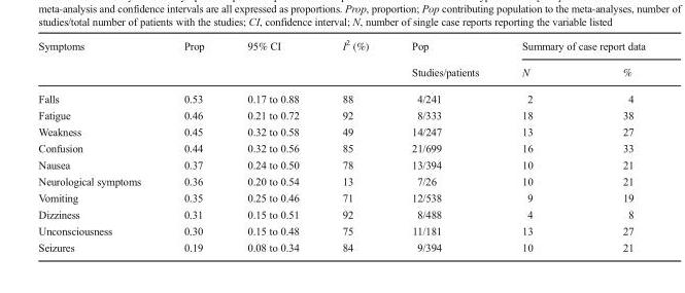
<table><thead><tr><td rowspan="2">Symptoms</td><td rowspan="2">Prop</td><td rowspan="2">95% CI</td><td rowspan="2">I<sup>2</sup> (%)</td><td rowspan="2">Pop Studies/patients</td><td colspan="2">Summary of case report data</td></tr><tr><td>N</td><td>%</td></tr></thead><tbody><tr><td>Falls</td><td>0.53</td><td>0.17 to 0.88</td><td>88</td><td>4/241</td><td>2</td><td>4</td></tr><tr><td>Fatigue</td><td>0.46</td><td>0.21 to 0.72</td><td>92</td><td>8/333</td><td>18</td><td>38</td></tr><tr><td>Weakness</td><td>0.45</td><td>0.32 to 0.58</td><td>49</td><td>14/247</td><td>13</td><td>27</td></tr><tr><td>Confusion</td><td>0.44</td><td>0.32 to 0.56</td><td>85</td><td>21/699</td><td>16</td><td>33</td></tr><tr><td>Nausea</td><td>0.37</td><td>0.24 to 0.50</td><td>78</td><td>13/394</td><td>10</td><td>21</td></tr><tr><td>Neurological symptoms</td><td>0.36</td><td>0.20 to 0.54</td><td>13</td><td>7/26</td><td>10</td><td>21</td></tr><tr><td>Vomiting</td><td>0.35</td><td>0.25 to 0.46</td><td>71</td><td>12/538</td><td>9</td><td>19</td></tr><tr><td>Dizziness</td><td>0.31</td><td>0.15 to 0.51</td><td>92</td><td>8/488</td><td>4</td><td>8</td></tr><tr><td>Unconsciousness</td><td>0.30</td><td>0.15 to 0.48</td><td>75</td><td>11/181</td><td>13</td><td>27</td></tr><tr><td>Seizures</td><td>0.19</td><td>0.08 to 0.34</td><td>84</td><td>9/394</td><td>10</td><td>21</td></tr></tbody></table>